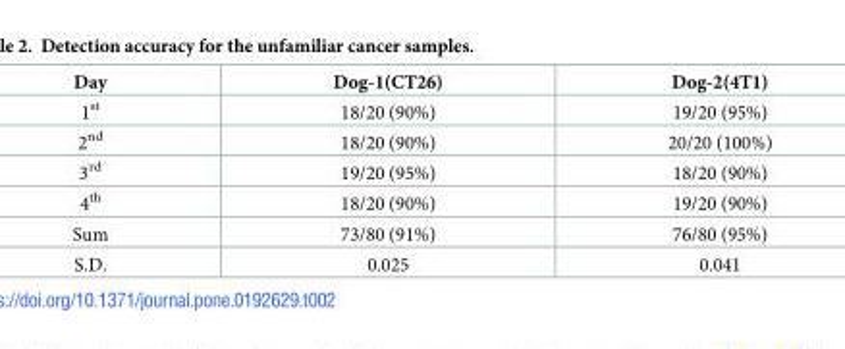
<table><thead><tr><td>Day</td><td>Dog-1(CT26)</td><td>Dog-2(4T1)</td></tr></thead><tbody><tr><td>1<sup>st</sup></td><td>18/20 (90%)</td><td>19/20 (95%)</td></tr><tr><td>2<sup>nd</sup></td><td>18/20 (90%)</td><td>20/20 (100%)</td></tr><tr><td>3<sup>rd</sup></td><td>19/20 (95%)</td><td>18/20 (90%)</td></tr><tr><td>4<sup>th</sup></td><td>18/20 (90%)</td><td>19/20 (90%)</td></tr><tr><td>Sum</td><td>73/80 (91%)</td><td>76/80 (95%)</td></tr><tr><td>S.D.</td><td>0.025</td><td>0.041</td></tr></tbody></table>